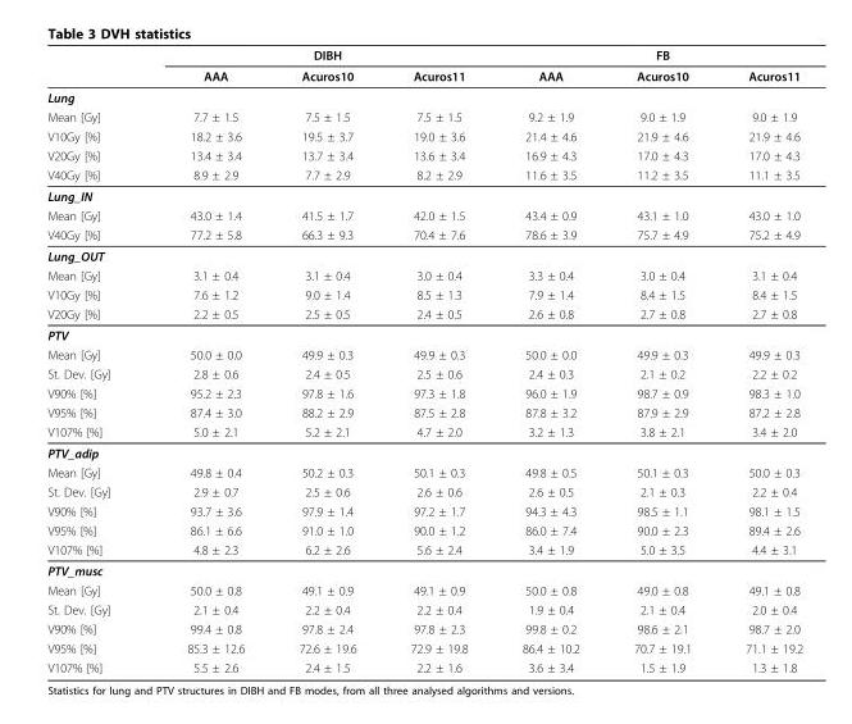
<table><thead><tr><td rowspan="2"></td><td colspan="3">DIBH</td><td colspan="3">FB</td></tr><tr><td>AAA</td><td>Acuros10</td><td>Acuros11</td><td>AAA</td><td>Acuros10</td><td>Acuros11</td></tr></thead><tbody><tr><td colspan="7">Lung</td></tr><tr><td>Mean [Gy]</td><td>7.7 ± 1.5</td><td>7.5 ± 1.5</td><td>7.5 ± 1.5</td><td>9.2 ± 1.9</td><td>9.0 ± 1.9</td><td>9.0 ± 1.9</td></tr><tr><td>V10Gy [%]</td><td>18.2 ± 3.6</td><td>19.5 ± 3.7</td><td>19.0 ± 3.6</td><td>21.4 ± 4.6</td><td>21.9 ± 4.6</td><td>21.9 ± 4.6</td></tr><tr><td>V20Gy [%]</td><td>13.4 ± 3.4</td><td>13.7 ± 3.4</td><td>13.6 ± 3.4</td><td>16.9 ± 4.3</td><td>17.0 ± 4.3</td><td>17.0 ± 4.3</td></tr><tr><td>V40Gy [%]</td><td>8.9 ± 2.9</td><td>7.7 ± 2.9</td><td>8.2 ± 2.9</td><td>11.6 ± 3.5</td><td>11.2 ± 3.5</td><td>11.1 ± 3.5</td></tr><tr><td colspan="7">Lung_IN</td></tr><tr><td>Mean [Gy]</td><td>43.0 ± 1.4</td><td>41.5 ± 1.7</td><td>42.0 ± 1.5</td><td>43.4 ± 0.9</td><td>43.1 ± 1.0</td><td>43.0 ± 1.0</td></tr><tr><td>V40Gy [%]</td><td>77.2 ± 5.8</td><td>66.3 ± 9.3</td><td>70.4 ± 7.6</td><td>78.6 ± 3.9</td><td>75.7 ± 4.9</td><td>75.2 ± 4.9</td></tr><tr><td colspan="7">Lung_OUT</td></tr><tr><td>Mean [Gy]</td><td>3.1 ± 0.4</td><td>3.1 ± 0.4</td><td>3.0 ± 0.4</td><td>3.3 ± 0.4</td><td>3.0 ± 0.4</td><td>3.1 ± 0.4</td></tr><tr><td>V10Gy [%]</td><td>7.6 ± 1.2</td><td>9.0 ± 1.4</td><td>8.5 ± 1.3</td><td>7.9 ± 1.4</td><td>8.4 ± 1.5</td><td>8.4 ± 1.5</td></tr><tr><td>V20Gy [%]</td><td>2.2 ± 0.5</td><td>2.5 ± 0.5</td><td>2.4 ± 0.5</td><td>2.6 ± 0.8</td><td>2.7 ± 0.8</td><td>2.7 ± 0.8</td></tr><tr><td colspan="7">PTV</td></tr><tr><td>Mean [Gy]</td><td>50.0 ± 0.0</td><td>49.9 ± 0.3</td><td>49.9 ± 0.3</td><td>50.0 ± 0.0</td><td>49.9 ± 0.3</td><td>49.9 ± 0.3</td></tr><tr><td>St. Dev. [Gy]</td><td>2.8 ± 0.6</td><td>2.4 ± 0.5</td><td>2.5 ± 0.6</td><td>2.4 ± 0.3</td><td>2.1 ± 0.2</td><td>2.2 ± 0.2</td></tr><tr><td>V90% [%]</td><td>95.2 ± 2.3</td><td>97.8 ± 1.6</td><td>97.3 ± 1.8</td><td>96.0 ± 1.9</td><td>98.7 ± 0.9</td><td>98.3 ± 1.0</td></tr><tr><td>V95% [%]</td><td>87.4 ± 3.0</td><td>88.2 ± 2.9</td><td>87.5 ± 2.8</td><td>87.8 ± 3.2</td><td>87.9 ± 2.9</td><td>87.2 ± 2.8</td></tr><tr><td>V107% [%]</td><td>5.0 ± 2.1</td><td>5.2 ± 2.1</td><td>4.7 ± 2.0</td><td>3.2 ± 1.3</td><td>3.8 ± 2.1</td><td>3.4 ± 2.0</td></tr><tr><td colspan="7">PTV_adip</td></tr><tr><td>Mean [Gy]</td><td>49.8 ± 0.4</td><td>50.2 ± 0.3</td><td>50.1 ± 0.3</td><td>49.8 ± 0.5</td><td>50.1 ± 0.3</td><td>50.0 ± 0.3</td></tr><tr><td>St. Dev. [Gy]</td><td>2.9 ± 0.7</td><td>2.5 ± 0.6</td><td>2.6 ± 0.6</td><td>2.6 ± 0.5</td><td>2.1 ± 0.3</td><td>2.2 ± 0.4</td></tr><tr><td>V90% [%]</td><td>93.7 ± 3.6</td><td>97.9 ± 1.4</td><td>97.2 ± 1.7</td><td>94.3 ± 4.3</td><td>98.5 ± 1.1</td><td>98.1 ± 1.5</td></tr><tr><td>V95% [%]</td><td>86.1 ± 6.6</td><td>91.0 ± 1.0</td><td>90.0 ± 1.2</td><td>86.0 ± 7.4</td><td>90.0 ± 2.3</td><td>89.4 ± 2.6</td></tr><tr><td>V107% [%]</td><td>4.8 ± 2.3</td><td>6.2 ± 2.6</td><td>5.6 ± 2.4</td><td>3.4 ± 1.9</td><td>5.0 ± 3.5</td><td>4.4 ± 3.1</td></tr><tr><td colspan="7">PTV_musc</td></tr><tr><td>Mean [Gy]</td><td>50.0 ± 0.8</td><td>49.1 ± 0.9</td><td>49.1 ± 0.9</td><td>50.0 ± 0.8</td><td>49.0 ± 0.8</td><td>49.1 ± 0.8</td></tr><tr><td>St. Dev. [Gy]</td><td>2.1 ± 0.4</td><td>2.2 ± 0.4</td><td>2.2 ± 0.4</td><td>1.9 ± 0.4</td><td>2.1 ± 0.4</td><td>2.0 ± 0.4</td></tr><tr><td>V90% [%]</td><td>99.4 ± 0.8</td><td>97.8 ± 2.4</td><td>97.8 ± 2.3</td><td>99.8 ± 0.2</td><td>98.6 ± 2.1</td><td>98.7 ± 2.0</td></tr><tr><td>V95% [%]</td><td>85.3 ± 12.6</td><td>72.6 ± 19.6</td><td>72.9 ± 19.8</td><td>86.4 ± 10.2</td><td>70.7 ± 19.1</td><td>71.1 ± 19.2</td></tr><tr><td>V107% [%]</td><td>5.5 ± 2.6</td><td>2.4 ± 1.5</td><td>2.2 ± 1.6</td><td>3.6 ± 3.4</td><td>1.5 ± 1.9</td><td>1.3 ± 1.8</td></tr></tbody></table>